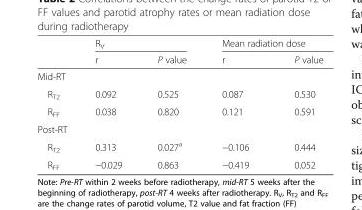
<table><thead><tr><td rowspan="2"></td><td colspan="2">R<sub>V</sub></td><td colspan="2">Mean radiation dose</td></tr><tr><td>r</td><td>P value</td><td>r</td><td>P value</td></tr></thead><tbody><tr><td colspan="5">Mid-RT</td></tr><tr><td>R<sub>T2</sub></td><td>0.092</td><td>0.525</td><td>0.087</td><td>0.530</td></tr><tr><td>R<sub>FF</sub></td><td>0.038</td><td>0.820</td><td>0.121</td><td>0.591</td></tr><tr><td colspan="5">Post-RT</td></tr><tr><td>R<sub>T2</sub></td><td>0.313</td><td>0.027<sup>a</sup></td><td>−0.106</td><td>0.444</td></tr><tr><td>R<sub>FF</sub></td><td>−0.029</td><td>0.863</td><td>−0.419</td><td>0.052</td></tr></tbody></table>